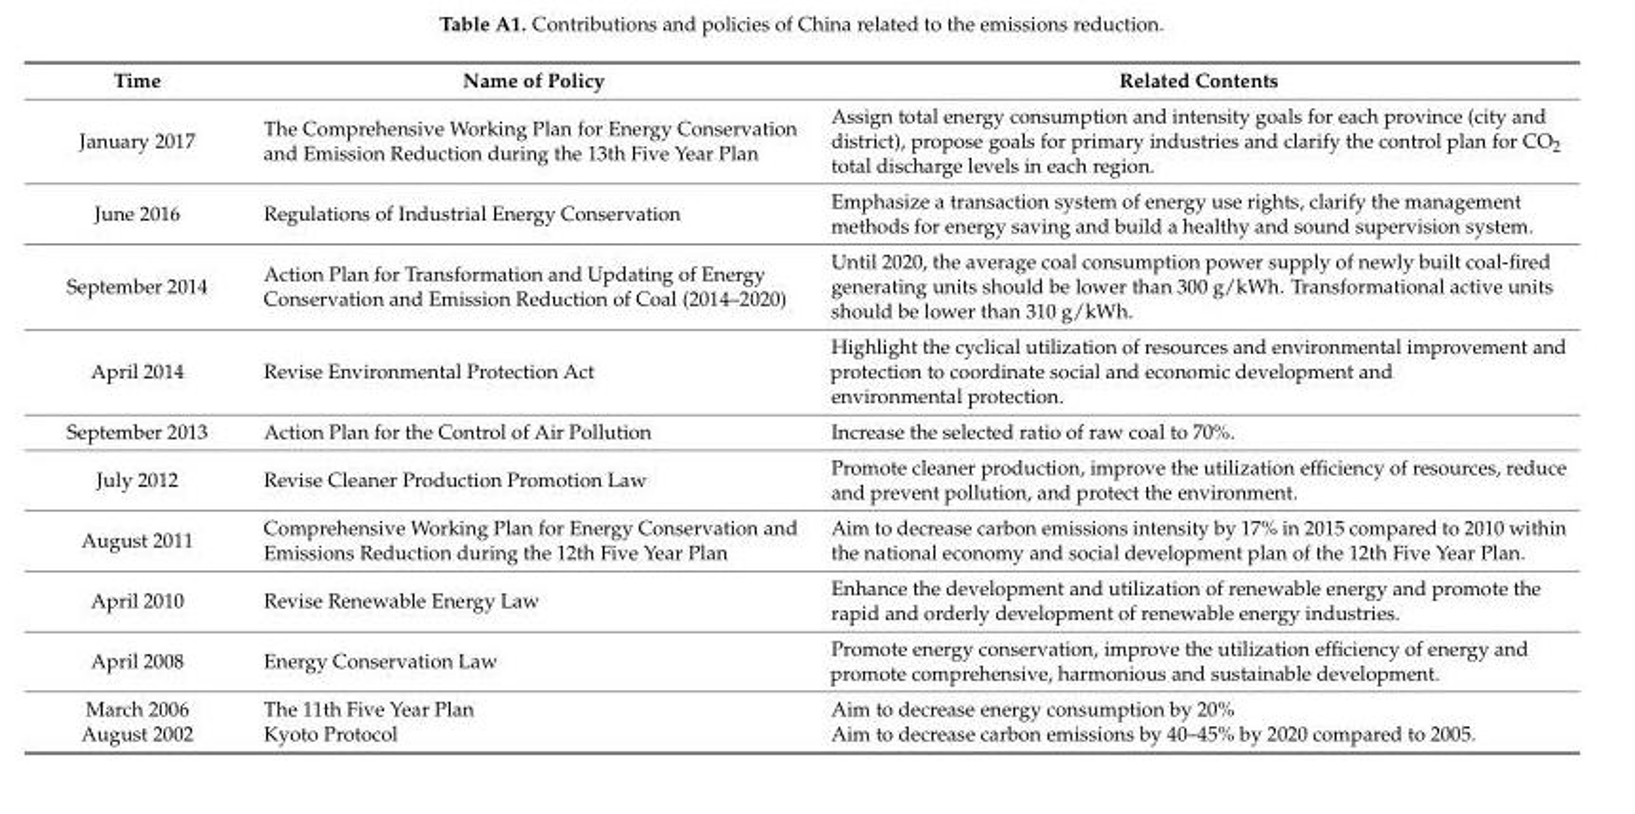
<table><thead><tr><td>Time</td><td>Name of Policy</td><td>Related Contents</td></tr></thead><tbody><tr><td>January 2017</td><td>The Comprehensive Working Plan for Energy Conservation and Emission Reduction during the 13th Five Year Plan</td><td>Assign total energy consumption and intensity goals for each province (city and district), propose goals for primary industries and clarify the control plan for CO<sub>2</sub> total discharge levels in each region.</td></tr><tr><td>June 2016</td><td>Regulations of Industrial Energy Conservation</td><td>Emphasize a transaction system of energy use rights, clarify the management methods for energy saving and build a healthy and sound supervision system.</td></tr><tr><td>September 2014</td><td>Action Plan for Transformation and Updating of Energy Conservation and Emission Reduction of Coal (2014–2020)</td><td>Until 2020, the average coal consumption power supply of newly built coal-fired generating units should be lower than 300 g/kWh. Transformational active units should be lower than 310 g/kWh.</td></tr><tr><td>April 2014</td><td>Revise Environmental Protection Act</td><td>Highlight the cyclical utilization of resources and environmental improvement and protection to coordinate social and economic development and environmental protection.</td></tr><tr><td>September 2013</td><td>Action Plan for the Control of Air Pollution</td><td>Increase the selected ratio of raw coal to 70%.</td></tr><tr><td>July 2012</td><td>Revise Cleaner Production Promotion Law</td><td>Promote cleaner production, improve the utilization efficiency of resources, reduce and prevent pollution, and protect the environment.</td></tr><tr><td>August 2011</td><td>Comprehensive Working Plan for Energy Conservation and Emissions Reduction during the 12th Five Year Plan</td><td>Aim to decrease carbon emissions intensity by 17% in 2015 compared to 2010 within the national economy and social development plan of the 12th Five Year Plan.</td></tr><tr><td>April 2010</td><td>Revise Renewable Energy Law</td><td>Enhance the development and utilization of renewable energy and promote the rapid and orderly development of renewable energy industries.</td></tr><tr><td>April 2008</td><td>Energy Conservation Law</td><td>Promote energy conservation, improve the utilization efficiency of energy and promote comprehensive, harmonious and sustainable development.</td></tr><tr><td>March 2006</td><td>The 11th Five Year Plan</td><td>Aim to decrease energy consumption by 20%</td></tr><tr><td>August 2002</td><td>Kyoto Protocol</td><td>Aim to decrease carbon emissions by 40–45% by 2020 compared to 2005.</td></tr></tbody></table>